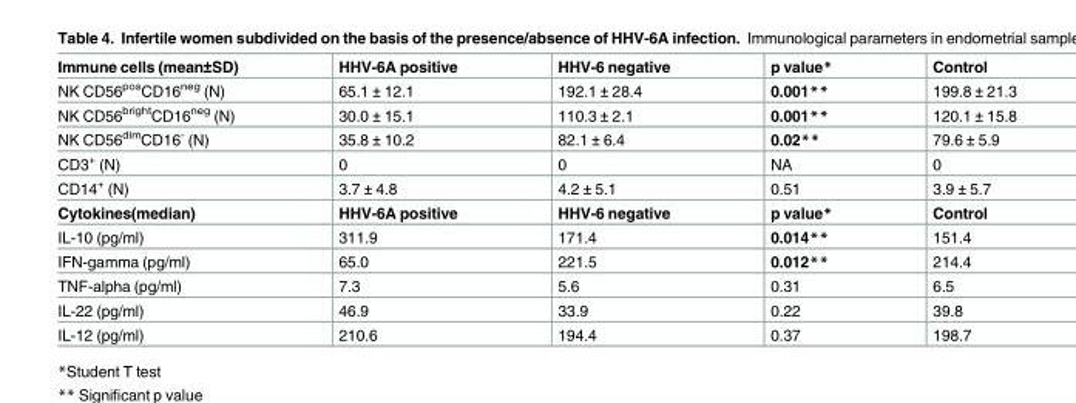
<table><tbody><tr><td>Immune cells (mean±SD)</td><td>HHV-6A positive</td><td>HHV-6 negative</td><td>p value*</td><td>Control</td></tr><tr><td>NK CD56<sup>pos</sup>CD16<sup>neg</sup> (N)</td><td>65.1 ± 12.1</td><td>192.1 ± 28.4</td><td>0.001**</td><td>199.8 ± 21.3</td></tr><tr><td>NK CD56<sup>bright</sup>CD16<sup>neg</sup> (N)</td><td>30.0 ± 15.1</td><td>110.3 ± 2.1</td><td>0.001**</td><td>120.1 ± 15.8</td></tr><tr><td>NK CD56<sup>dim</sup>CD16<sup>-</sup> (N)</td><td>35.8 ± 10.2</td><td>82.1 ± 6.4</td><td>0.02**</td><td>79.6 ± 5.9</td></tr><tr><td>CD3<sup>+</sup> (N)</td><td>0</td><td>0</td><td>NA</td><td>0</td></tr><tr><td>CD14<sup>+</sup> (N)</td><td>3.7 ± 4.8</td><td>4.2 ± 5.1</td><td>0.51</td><td>3.9 ± 5.7</td></tr><tr><td>Cytokines(median)</td><td>HHV-6A positive</td><td>HHV-6 negative</td><td>p value*</td><td>Control</td></tr><tr><td>IL-10 (pg/ml)</td><td>311.9</td><td>171.4</td><td>0.014**</td><td>151.4</td></tr><tr><td>IFN-gamma (pg/ml)</td><td>65.0</td><td>221.5</td><td>0.012**</td><td>214.4</td></tr><tr><td>TNF-alpha (pg/ml)</td><td>7.3</td><td>5.6</td><td>0.31</td><td>6.5</td></tr><tr><td>IL-22 (pg/ml)</td><td>46.9</td><td>33.9</td><td>0.22</td><td>39.8</td></tr><tr><td>IL-12 (pg/ml)</td><td>210.6</td><td>194.4</td><td>0.37</td><td>198.7</td></tr></tbody></table>